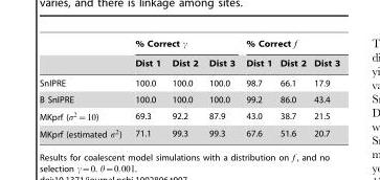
<table><thead><tr><td rowspan="2"></td><td colspan="3">% Correct c</td><td colspan="3">% Correct f</td></tr><tr><td>Dist 1</td><td>Dist 2</td><td>Dist 3</td><td>Dist 1</td><td>Dist 2</td><td>Dist 3</td></tr></thead><tbody><tr><td>SnIPRE</td><td>100.0</td><td>100.0</td><td>100.0</td><td>98.7</td><td>66.1</td><td>17.9</td></tr><tr><td>B SnIPRE</td><td>100.0</td><td>100.0</td><td>100.0</td><td>99.2</td><td>86.0</td><td>43.4</td></tr><tr><td>MKprf (s2~10)</td><td>69.3</td><td>92.2</td><td>87.9</td><td>43.0</td><td>38.7</td><td>21.5</td></tr><tr><td>MKprf (estimated s2)</td><td>71.1</td><td>99.3</td><td>99.3</td><td>67.6</td><td>51.6</td><td>20.7</td></tr></tbody></table>